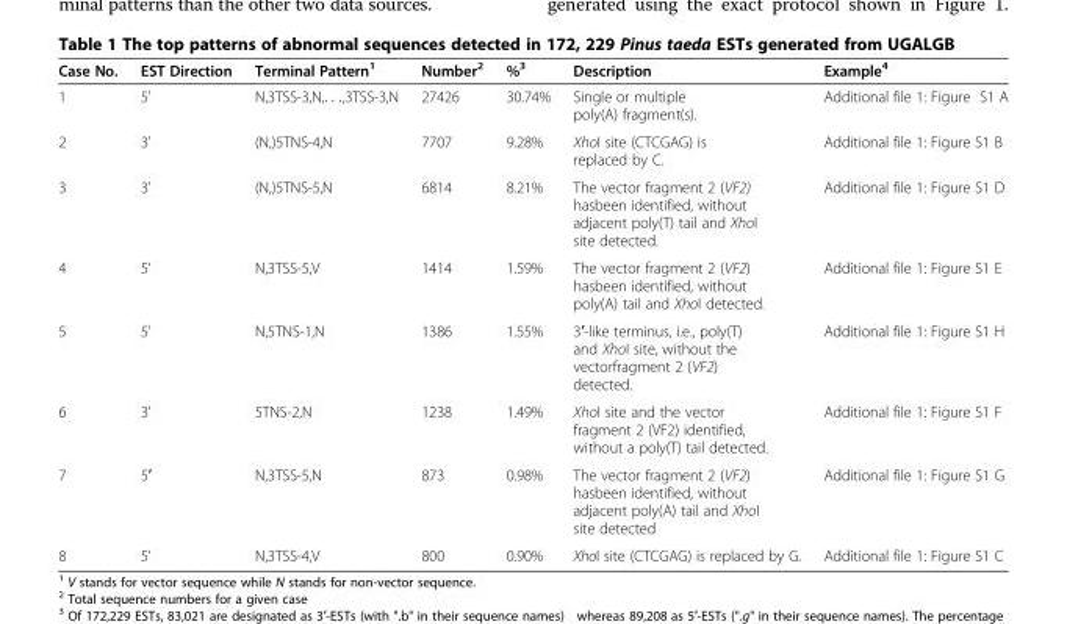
<table><thead><tr><td>Case No.</td><td>EST Direction</td><td>Terminal Pattern<sup>1</sup></td><td>Number<sup>2</sup></td><td>%<sup>3</sup></td><td>Description</td><td>Example<sup>4</sup></td></tr></thead><tbody><tr><td>1</td><td>5&#x27;</td><td>N,3TSS-3,N,. . .,3TSS-3,N</td><td>27426</td><td>30.74%</td><td>Single or multiple poly(A) fragment(s).</td><td>Additional file 1: Figure S1 A</td></tr><tr><td>2</td><td>3&#x27;</td><td>(N,)5TNS-4,N</td><td>7707</td><td>9.28%</td><td>XhoI site (CTCGAG) is replaced by C.</td><td>Additional file 1: Figure S1 B</td></tr><tr><td>3</td><td>3&#x27;</td><td>(N,)5TNS-5,N</td><td>6814</td><td>8.21%</td><td>The vector fragment 2 (VF2) hasbeen identified, without adjacent poly(T) tail and XhoI site detected.</td><td>Additional file 1: Figure S1 D</td></tr><tr><td>4</td><td>5&#x27;</td><td>N,3TSS-5,V</td><td>1414</td><td>1.59%</td><td>The vector fragment 2 (VF2) hasbeen identified, without poly(A) tail and XhoI detected.</td><td>Additional file 1: Figure S1 E</td></tr><tr><td>5</td><td>5&#x27;</td><td>N,5TNS-1,N</td><td>1386</td><td>1.55%</td><td>3′-like terminus, i.e., poly(T) and XhoI site, without the vectorfragment 2 (VF2) detected.</td><td>Additional file 1: Figure S1 H</td></tr><tr><td>6</td><td>3&#x27;</td><td>5TNS-2,N</td><td>1238</td><td>1.49%</td><td>XhoI site and the vector fragment 2 (VF2) identified, without a poly(T) tail detected.</td><td>Additional file 1: Figure S1 F</td></tr><tr><td>7</td><td>5′</td><td>N,3TSS-5,N</td><td>873</td><td>0.98%</td><td>The vector fragment 2 (VF2) hasbeen identified, without adjacent poly(A) tail and XhoI site detected</td><td>Additional file 1: Figure S1 G</td></tr><tr><td>8</td><td>5&#x27;</td><td>N,3TSS-4,V</td><td>800</td><td>0.90%</td><td>XhoI site (CTCGAG) is replaced by G.</td><td>Additional file 1: Figure S1 C</td></tr></tbody></table>